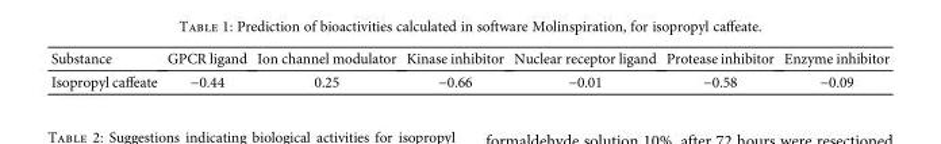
<table><thead><tr><td>Substance</td><td>GPCR ligand</td><td>Ion channel modulator</td><td>Kinase inhibitor</td><td>Nuclear receptor ligand</td><td>Protease inhibitor</td><td>Enzyme inhibitor</td></tr></thead><tbody><tr><td>Isopropyl caffeate</td><td>−0.44</td><td>0.25</td><td>−0.66</td><td>−0.01</td><td>−0.58</td><td>−0.09</td></tr></tbody></table>